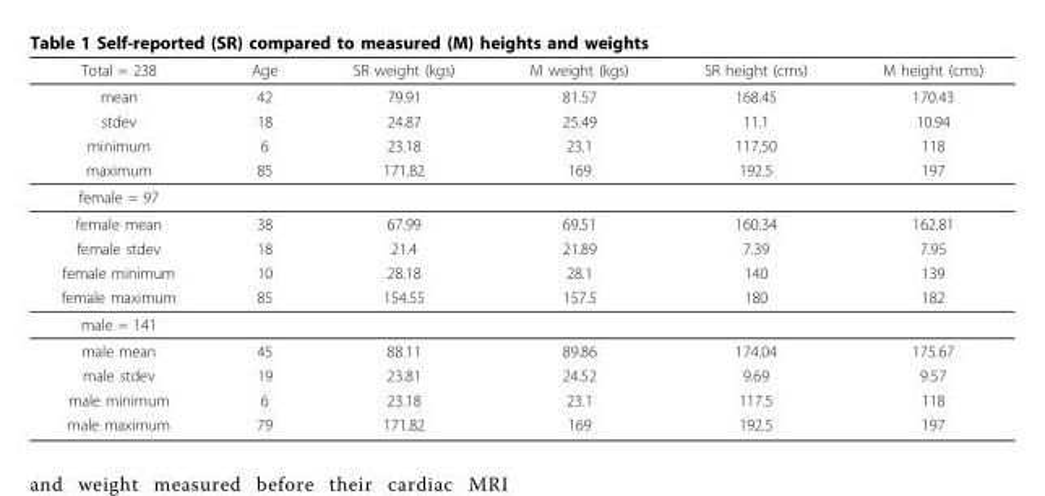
<table><thead><tr><td>Total = 238</td><td>Age</td><td>SR weight (kgs)</td><td>M weight (kgs)</td><td>SR height (cms)</td><td>M height (cms)</td></tr></thead><tbody><tr><td>mean</td><td>42</td><td>79.91</td><td>81.57</td><td>168.45</td><td>170.43</td></tr><tr><td>stdev</td><td>18</td><td>24.87</td><td>25.49</td><td>11.1</td><td>10.94</td></tr><tr><td>minimum</td><td>6</td><td>23.18</td><td>23.1</td><td>117.50</td><td>118</td></tr><tr><td>maximum</td><td>85</td><td>171.82</td><td>169</td><td>192.5</td><td>197</td></tr><tr><td colspan="6">female = 97</td></tr><tr><td>female mean</td><td>38</td><td>67.99</td><td>69.51</td><td>160.34</td><td>162.81</td></tr><tr><td>female stdev</td><td>18</td><td>21.4</td><td>21.89</td><td>7.39</td><td>7.95</td></tr><tr><td>female minimum</td><td>10</td><td>28.18</td><td>28.1</td><td>140</td><td>139</td></tr><tr><td>female maximum</td><td>85</td><td>154.55</td><td>157.5</td><td>180</td><td>182</td></tr><tr><td colspan="6">male = 141</td></tr><tr><td>male mean</td><td>45</td><td>88.11</td><td>89.86</td><td>174.04</td><td>175.67</td></tr><tr><td>male stdev</td><td>19</td><td>23.81</td><td>24.52</td><td>9.69</td><td>9.57</td></tr><tr><td>male minimum</td><td>6</td><td>23.18</td><td>23.1</td><td>117.5</td><td>118</td></tr><tr><td>male maximum</td><td>79</td><td>171.82</td><td>169</td><td>192.5</td><td>197</td></tr></tbody></table>